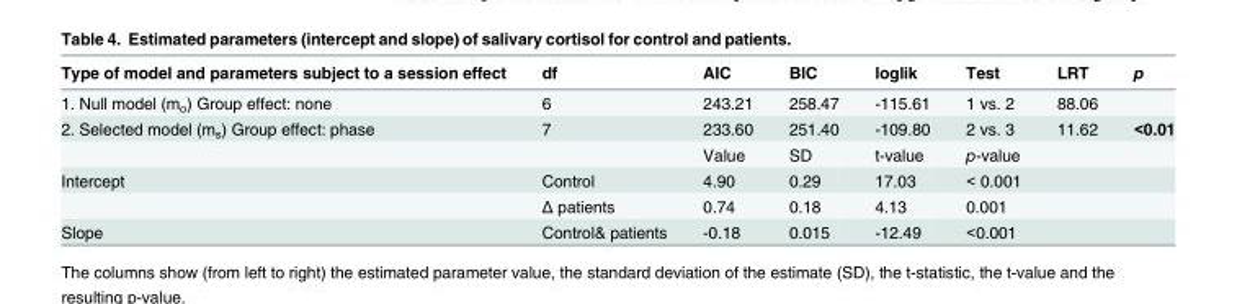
<table><thead><tr><td>Type of model and parameters subject to a session effect</td><td>df</td><td>AIC</td><td>BIC</td><td>loglik</td><td>Test</td><td>LRT</td><td>p</td></tr></thead><tbody><tr><td>1. Null model (m<sub>o</sub>) Group effect: none</td><td>6</td><td>243.21</td><td>258.47</td><td>-115.61</td><td>1 vs. 2</td><td>88.06</td><td></td></tr><tr><td rowspan="2">2. Selected model (m<sub>s</sub>) Group effect: phase</td><td>7</td><td>233.60</td><td>251.40</td><td>-109.80</td><td>2 vs. 3</td><td>11.62</td><td>&lt;0.01</td></tr><tr><td></td><td>Value</td><td>SD</td><td>t-value</td><td>p-value</td><td></td><td></td></tr><tr><td rowspan="2">Intercept</td><td>Control</td><td>4.90</td><td>0.29</td><td>17.03</td><td>&lt; 0.001</td><td></td><td></td></tr><tr><td>Δ patients</td><td>0.74</td><td>0.18</td><td>4.13</td><td>0.001</td><td></td><td></td></tr><tr><td>Slope</td><td>Control&amp; patients</td><td>-0.18</td><td>0.015</td><td>-12.49</td><td>&lt;0.001</td><td></td><td></td></tr></tbody></table>